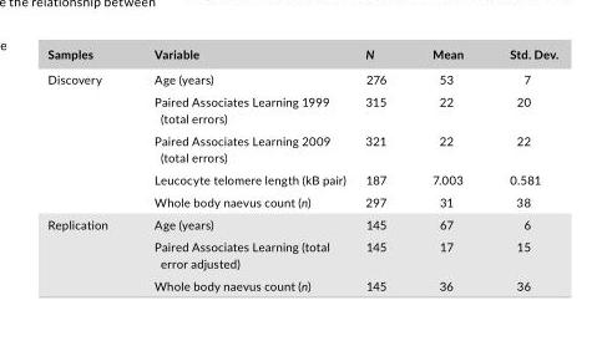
<table><thead><tr><td>Samples</td><td>Variable</td><td>N</td><td>Mean</td><td>Std. Dev.</td></tr></thead><tbody><tr><td rowspan="5">Discovery</td><td>Age (years)</td><td>276</td><td>53</td><td>7</td></tr><tr><td>Paired Associates Learning 1999 (total errors)</td><td>315</td><td>22</td><td>20</td></tr><tr><td>Paired Associates Learning 2009 (total errors)</td><td>321</td><td>22</td><td>22</td></tr><tr><td>Leucocyte telomere length (kB pair)</td><td>187</td><td>7.003</td><td>0.581</td></tr><tr><td>Whole body naevus count (n)</td><td>297</td><td>31</td><td>38</td></tr><tr><td rowspan="3">Replication</td><td>Age (years)</td><td>145</td><td>67</td><td>6</td></tr><tr><td>Paired Associates Learning (total error adjusted)</td><td>145</td><td>17</td><td>15</td></tr><tr><td>Whole body naevus count (n)</td><td>145</td><td>36</td><td>36</td></tr></tbody></table>